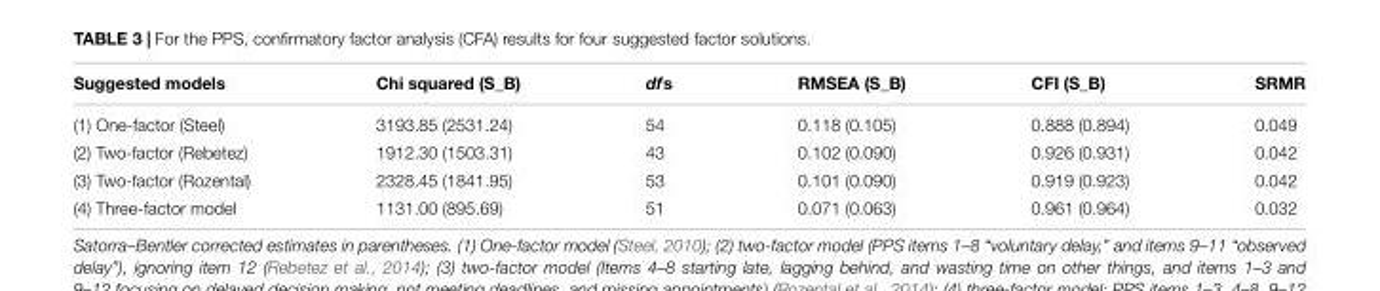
<table><thead><tr><td>Suggested models</td><td>Chi squared (S_B)</td><td>dfs</td><td>RMSEA (S_B)</td><td>CFI (S_B)</td><td>SRMR</td></tr></thead><tbody><tr><td>(1) One-factor (Steel)</td><td>3193.85 (2531.24)</td><td>54</td><td>0.118 (0.105)</td><td>0.888 (0.894)</td><td>0.049</td></tr><tr><td>(2) Two-factor (Rebetez)</td><td>1912.30 (1503.31)</td><td>43</td><td>0.102 (0.090)</td><td>0.926 (0.931)</td><td>0.042</td></tr><tr><td>(3) Two-factor (Rozental)</td><td>2328.45 (1841.95)</td><td>53</td><td>0.101 (0.090)</td><td>0.919 (0.923)</td><td>0.042</td></tr><tr><td>(4) Three-factor model</td><td>1131.00 (895.69)</td><td>51</td><td>0.071 (0.063)</td><td>0.961 (0.964)</td><td>0.032</td></tr></tbody></table>